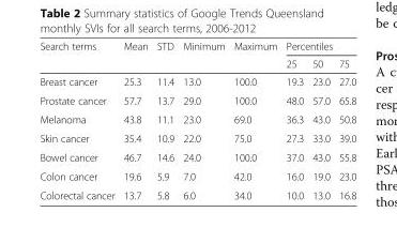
<table><thead><tr><td rowspan="2">Search terms</td><td rowspan="2">Mean</td><td rowspan="2">STD</td><td rowspan="2">Minimum</td><td rowspan="2">Maximum</td><td colspan="3">Percentiles</td></tr><tr><td>25</td><td>50</td><td>75</td></tr></thead><tbody><tr><td>Breast cancer</td><td>25.3</td><td>11.4</td><td>13.0</td><td>100.0</td><td>19.3</td><td>23.0</td><td>27.0</td></tr><tr><td>Prostate cancer</td><td>57.7</td><td>13.7</td><td>29.0</td><td>100.0</td><td>48.0</td><td>57.0</td><td>65.8</td></tr><tr><td>Melanoma</td><td>43.8</td><td>11.1</td><td>23.0</td><td>69.0</td><td>36.3</td><td>43.0</td><td>50.8</td></tr><tr><td>Skin cancer</td><td>35.4</td><td>10.9</td><td>22.0</td><td>75.0</td><td>27.3</td><td>33.0</td><td>39.0</td></tr><tr><td>Bowel cancer</td><td>46.7</td><td>14.6</td><td>24.0</td><td>100.0</td><td>37.0</td><td>43.0</td><td>55.8</td></tr><tr><td>Colon cancer</td><td>19.6</td><td>5.9</td><td>7.0</td><td>42.0</td><td>16.0</td><td>19.0</td><td>23.0</td></tr><tr><td>Colorectal cancer</td><td>13.7</td><td>5.8</td><td>6.0</td><td>34.0</td><td>10.0</td><td>13.0</td><td>16.8</td></tr></tbody></table>